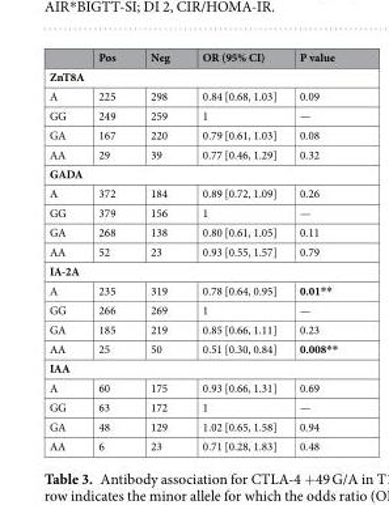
<table><thead><tr><td></td><td>Pos</td><td>Neg</td><td>OR (95% CI)</td><td>P value</td></tr></thead><tbody><tr><td colspan="5">ZnT8A</td></tr><tr><td>A</td><td>225</td><td>298</td><td>0.84 [0.68, 1.03]</td><td>0.09</td></tr><tr><td>GG</td><td>249</td><td>259</td><td>1</td><td>—</td></tr><tr><td>GA</td><td>167</td><td>220</td><td>0.79 [0.61, 1.03]</td><td>0.08</td></tr><tr><td>AA</td><td>29</td><td>39</td><td>0.77 [0.46, 1.29]</td><td>0.32</td></tr><tr><td colspan="5">GADA</td></tr><tr><td>A</td><td>372</td><td>184</td><td>0.89 [0.72, 1.09]</td><td>0.26</td></tr><tr><td>GG</td><td>379</td><td>156</td><td>1</td><td>—</td></tr><tr><td>GA</td><td>268</td><td>138</td><td>0.80 [0.61, 1.05]</td><td>0.11</td></tr><tr><td>AA</td><td>52</td><td>23</td><td>0.93 [0.55, 1.57]</td><td>0.79</td></tr><tr><td colspan="5">IA-2A</td></tr><tr><td>A</td><td>235</td><td>319</td><td>0.78 [0.64, 0.95]</td><td>0.01**</td></tr><tr><td>GG</td><td>266</td><td>269</td><td>1</td><td>—</td></tr><tr><td>GA</td><td>185</td><td>219</td><td>0.85 [0.66, 1.11]</td><td>0.23</td></tr><tr><td>AA</td><td>25</td><td>50</td><td>0.51 [0.30, 0.84]</td><td>0.008**</td></tr><tr><td colspan="5">IAA</td></tr><tr><td>A</td><td>60</td><td>175</td><td>0.93 [0.66, 1.31]</td><td>0.69</td></tr><tr><td>GG</td><td>63</td><td>172</td><td>1</td><td>—</td></tr><tr><td>GA</td><td>48</td><td>129</td><td>1.02 [0.65, 1.58]</td><td>0.94</td></tr><tr><td>AA</td><td>6</td><td>23</td><td>0.71 [0.28, 1.83]</td><td>0.48</td></tr></tbody></table>